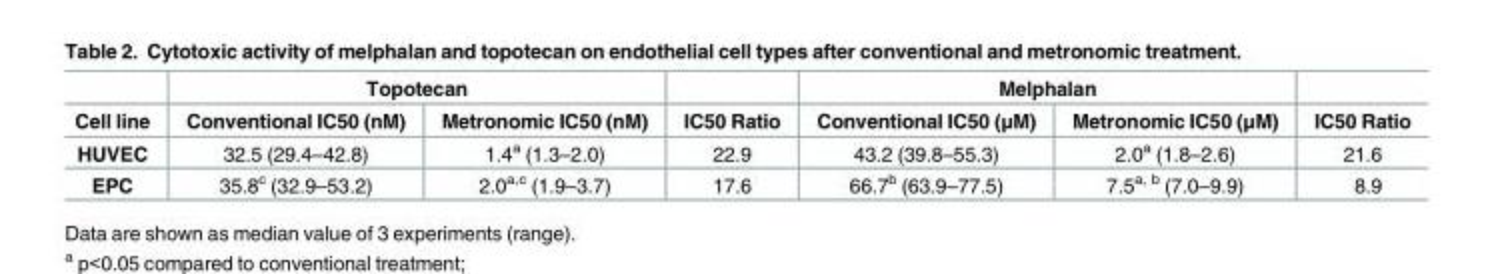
<table><thead><tr><td rowspan="2">Cell line</td><td colspan="2">Topotecan</td><td rowspan="2">IC50 Ratio</td><td colspan="2">Melphalan</td><td rowspan="2">IC50 Ratio</td></tr><tr><td>Conventional IC50 (nM)</td><td>Metronomic IC50 (nM)</td><td>Conventional IC50 (μM)</td><td>Metronomic IC50 (μM)</td></tr></thead><tbody><tr><td>HUVEC</td><td>32.5 (29.4–42.8)</td><td>1.4<sup>a</sup> (1.3–2.0)</td><td>22.9</td><td>43.2 (39.8–55.3)</td><td>2.0<sup>a</sup> (1.8–2.6)</td><td>21.6</td></tr><tr><td>EPC</td><td>35.8<sup>c</sup> (32.9–53.2)</td><td>2.0<sup>a,c</sup> (1.9–3.7)</td><td>17.6</td><td>66.7<sup>b</sup> (63.9–77.5)</td><td>7.5<sup>a, b</sup> (7.0–9.9)</td><td>8.9</td></tr></tbody></table>